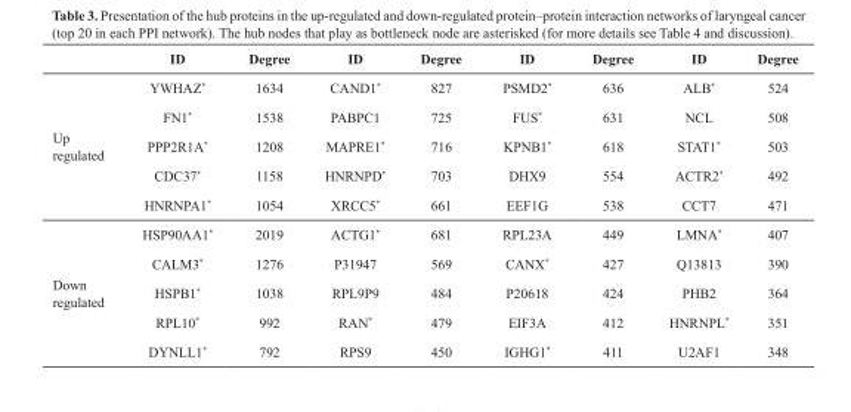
<table><thead><tr><td></td><td>ID</td><td>Degree</td><td>ID</td><td>Degree</td><td>ID</td><td>Degree</td><td>ID</td><td>Degree</td></tr></thead><tbody><tr><td rowspan="5">Up regulated</td><td>YWHAZ*</td><td>1634</td><td>CAND1*</td><td>827</td><td>PSMD2*</td><td>636</td><td>ALB*</td><td>524</td></tr><tr><td>FN1*</td><td>1538</td><td>PABPC1</td><td>725</td><td>FUS*</td><td>631</td><td>NCL</td><td>508</td></tr><tr><td>PPP2R1A*</td><td>1208</td><td>MAPRE1*</td><td>716</td><td>KPNB1*</td><td>618</td><td>STAT1*</td><td>503</td></tr><tr><td>CDC37*</td><td>1158</td><td>HNRNPD*</td><td>703</td><td>DHX9</td><td>554</td><td>ACTR2*</td><td>492</td></tr><tr><td>HNRNPA1*</td><td>1054</td><td>XRCC5*</td><td>661</td><td>EEF1G</td><td>538</td><td>CCT7</td><td>471</td></tr><tr><td rowspan="5">Down regulated</td><td>HSP90AA1*</td><td>2019</td><td>ACTG1*</td><td>681</td><td>RPL23A</td><td>449</td><td>LMNA*</td><td>407</td></tr><tr><td>CALM3*</td><td>1276</td><td>P31947</td><td>569</td><td>CANX*</td><td>427</td><td>Q13813</td><td>390</td></tr><tr><td>HSPB1*</td><td>1038</td><td>RPL9P9</td><td>484</td><td>P20618</td><td>424</td><td>PHB2</td><td>364</td></tr><tr><td>RPL10*</td><td>992</td><td>RAN*</td><td>479</td><td>EIF3A</td><td>412</td><td>HNRNPL*</td><td>351</td></tr><tr><td>DYNLL1*</td><td>792</td><td>RPS9</td><td>450</td><td>IGHG1*</td><td>411</td><td>U2AF1</td><td>348</td></tr></tbody></table>